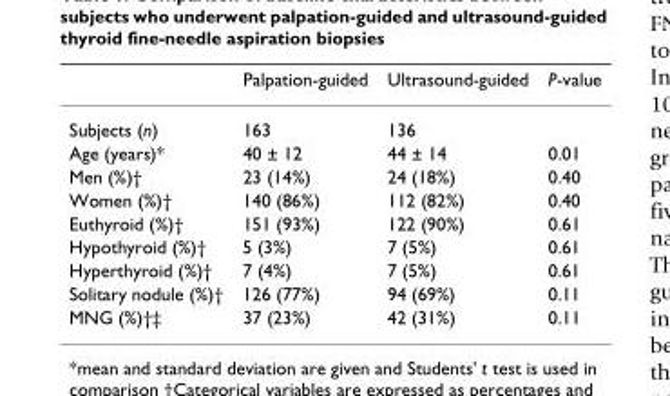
<table><thead><tr><td></td><td>Palpation-guided</td><td>Ultrasound-guided</td><td>P-value</td></tr></thead><tbody><tr><td>Subjects (n)</td><td>163</td><td>136</td><td></td></tr><tr><td>Age (years)*</td><td>40 ± 12</td><td>44 ± 14</td><td>0.01</td></tr><tr><td>Men (%)†</td><td>23 (14%)</td><td>24 (18%)</td><td>0.40</td></tr><tr><td>Women (%)†</td><td>140 (86%)</td><td>112 (82%)</td><td>0.40</td></tr><tr><td>Euthyroid (%)†</td><td>151 (93%)</td><td>122 (90%)</td><td>0.61</td></tr><tr><td>Hypothyroid (%)†</td><td>5 (3%)</td><td>7 (5%)</td><td>0.61</td></tr><tr><td>Hyperthyroid (%)†</td><td>7 (4%)</td><td>7 (5%)</td><td>0.61</td></tr><tr><td>Solitary nodule (%)†</td><td>126 (77%)</td><td>94 (69%)</td><td>0.11</td></tr><tr><td>MNG (%)†‡</td><td>37 (23%)</td><td>42 (31%)</td><td>0.11</td></tr></tbody></table>